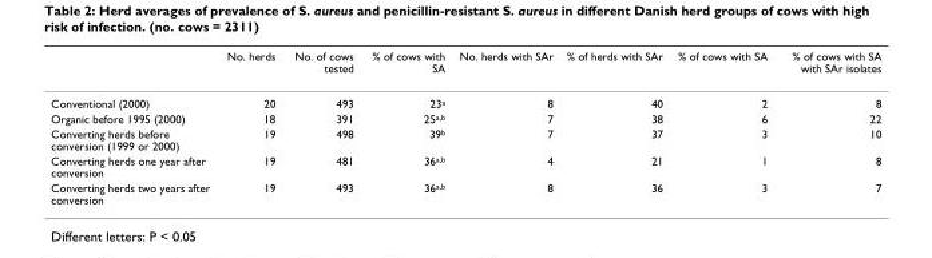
<table><thead><tr><td></td><td>No. herds</td><td>No. of cows tested</td><td>% of cows with SA</td><td>No. herds with SAr</td><td>% of herds with SAr</td><td>% of cows with SA</td><td>% of cows with SA with SAr isolates</td></tr></thead><tbody><tr><td>Conventional (2000)</td><td>20</td><td>493</td><td>23<sup>a</sup></td><td>8</td><td>40</td><td>2</td><td>8</td></tr><tr><td>Organic before 1995 (2000)</td><td>18</td><td>391</td><td>25<sup>a,b</sup></td><td>7</td><td>38</td><td>6</td><td>22</td></tr><tr><td>Converting herds before conversion (1999 or 2000)</td><td>19</td><td>498</td><td>39<sup>b</sup></td><td>7</td><td>37</td><td>3</td><td>10</td></tr><tr><td>Converting herds one year after conversion</td><td>19</td><td>481</td><td>36<sup>a,b</sup></td><td>4</td><td>21</td><td>1</td><td>8</td></tr><tr><td>Converting herds two years after conversion</td><td>19</td><td>493</td><td>36<sup>a,b</sup></td><td>8</td><td>36</td><td>3</td><td>7</td></tr></tbody></table>